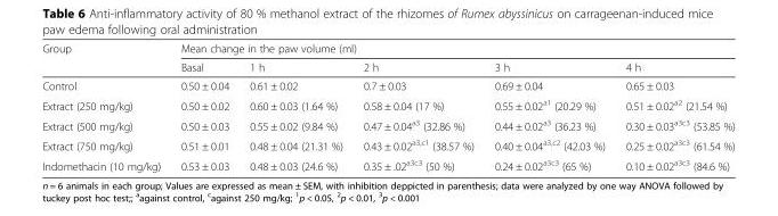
<table><thead><tr><td rowspan="2">Group</td><td colspan="5">Mean change in the paw volume (ml)</td></tr><tr><td>Basal</td><td>1 h</td><td>2 h</td><td>3 h</td><td>4 h</td></tr></thead><tbody><tr><td>Control</td><td>0.50 ± 0.04</td><td>0.61 ± 0.02</td><td>0.7 ± 0.03</td><td>0.69 ± 0.04</td><td>0.65 ± 0.03</td></tr><tr><td>Extract (250 mg/kg)</td><td>0.50 ± 0.02</td><td>0.60 ± 0.03 (1.64 %)</td><td>0.58 ± 0.04 (17 %)</td><td>0.55 ± 0.02<sup>a1</sup> (20.29 %)</td><td>0.51 ± 0.02<sup>a2</sup> (21.54 %)</td></tr><tr><td>Extract (500 mg/kg)</td><td>0.50 ± 0.03</td><td>0.55 ± 0.02 (9.84 %)</td><td>0.47 ± 0.04<sup>a3</sup> (32.86 %)</td><td>0.44 ± 0.02<sup>a3</sup> (36.23 %)</td><td>0.30 ± 0.03<sup>a3c3</sup> (53.85 %)</td></tr><tr><td>Extract (750 mg/kg)</td><td>0.51 ± 0.01</td><td>0.48 ± 0.04 (21.31 %)</td><td>0.43 ± 0.02<sup>a3,c1</sup> (38.57 %)</td><td>0.40 ± 0.04<sup>a3,c2</sup> (42.03 %)</td><td>0.25 ± 0.02<sup>a3c3</sup> (61.54 %)</td></tr><tr><td>Indomethacin (10 mg/kg)</td><td>0.53 ± 0.03</td><td>0.48 ± 0.03 (24.6 %)</td><td>0.35 ± .02<sup>a3c3</sup> (50 %)</td><td>0.24 ± 0.02<sup>a3c3</sup> (65 %)</td><td>0.10 ± 0.02<sup>a3c3</sup> (84.6 %)</td></tr></tbody></table>